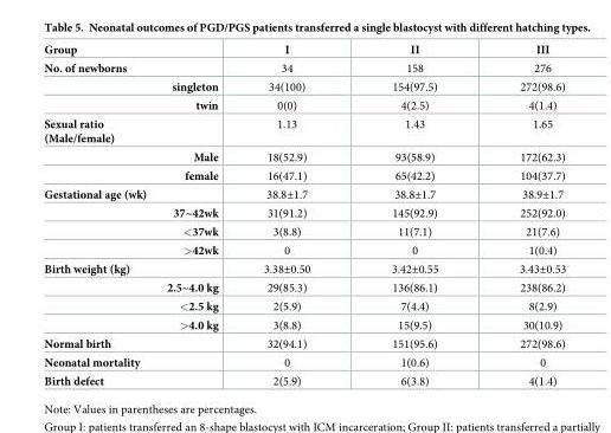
<table><thead><tr><td>Group</td><td>I</td><td>II</td><td>III</td></tr></thead><tbody><tr><td>No. of newborns</td><td>34</td><td>158</td><td>276</td></tr><tr><td>singleton</td><td>34(100)</td><td>154(97.5)</td><td>272(98.6)</td></tr><tr><td>twin</td><td>0(0)</td><td>4(2.5)</td><td>4(1.4)</td></tr><tr><td>Sexual ratio (Male/female)</td><td>1.13</td><td>1.43</td><td>1.65</td></tr><tr><td>Male</td><td>18(52.9)</td><td>93(58.9)</td><td>172(62.3)</td></tr><tr><td>female</td><td>16(47.1)</td><td>65(42.2)</td><td>104(37.7)</td></tr><tr><td>Gestational age (wk)</td><td>38.8±1.7</td><td>38.8±1.7</td><td>38.9±1.7</td></tr><tr><td>37~42wk</td><td>31(91.2)</td><td>145(92.9)</td><td>252(92.0)</td></tr><tr><td>&lt;37wk</td><td>3(8.8)</td><td>11(7.1)</td><td>21(7.6)</td></tr><tr><td>&gt;42wk</td><td>0</td><td>0</td><td>1(0.4)</td></tr><tr><td>Birth weight (kg)</td><td>3.38±0.50</td><td>3.42±0.55</td><td>3.43±0.53</td></tr><tr><td>2.5~4.0 kg</td><td>29(85.3)</td><td>136(86.1)</td><td>238(86.2)</td></tr><tr><td>&lt;2.5 kg</td><td>2(5.9)</td><td>7(4.4)</td><td>8(2.9)</td></tr><tr><td>&gt;4.0 kg</td><td>3(8.8)</td><td>15(9.5)</td><td>30(10.9)</td></tr><tr><td>Normal birth</td><td>32(94.1)</td><td>151(95.6)</td><td>272(98.6)</td></tr><tr><td>Neonatal mortality</td><td>0</td><td>1(0.6)</td><td>0</td></tr><tr><td>Birth defect</td><td>2(5.9)</td><td>6(3.8)</td><td>4(1.4)</td></tr></tbody></table>